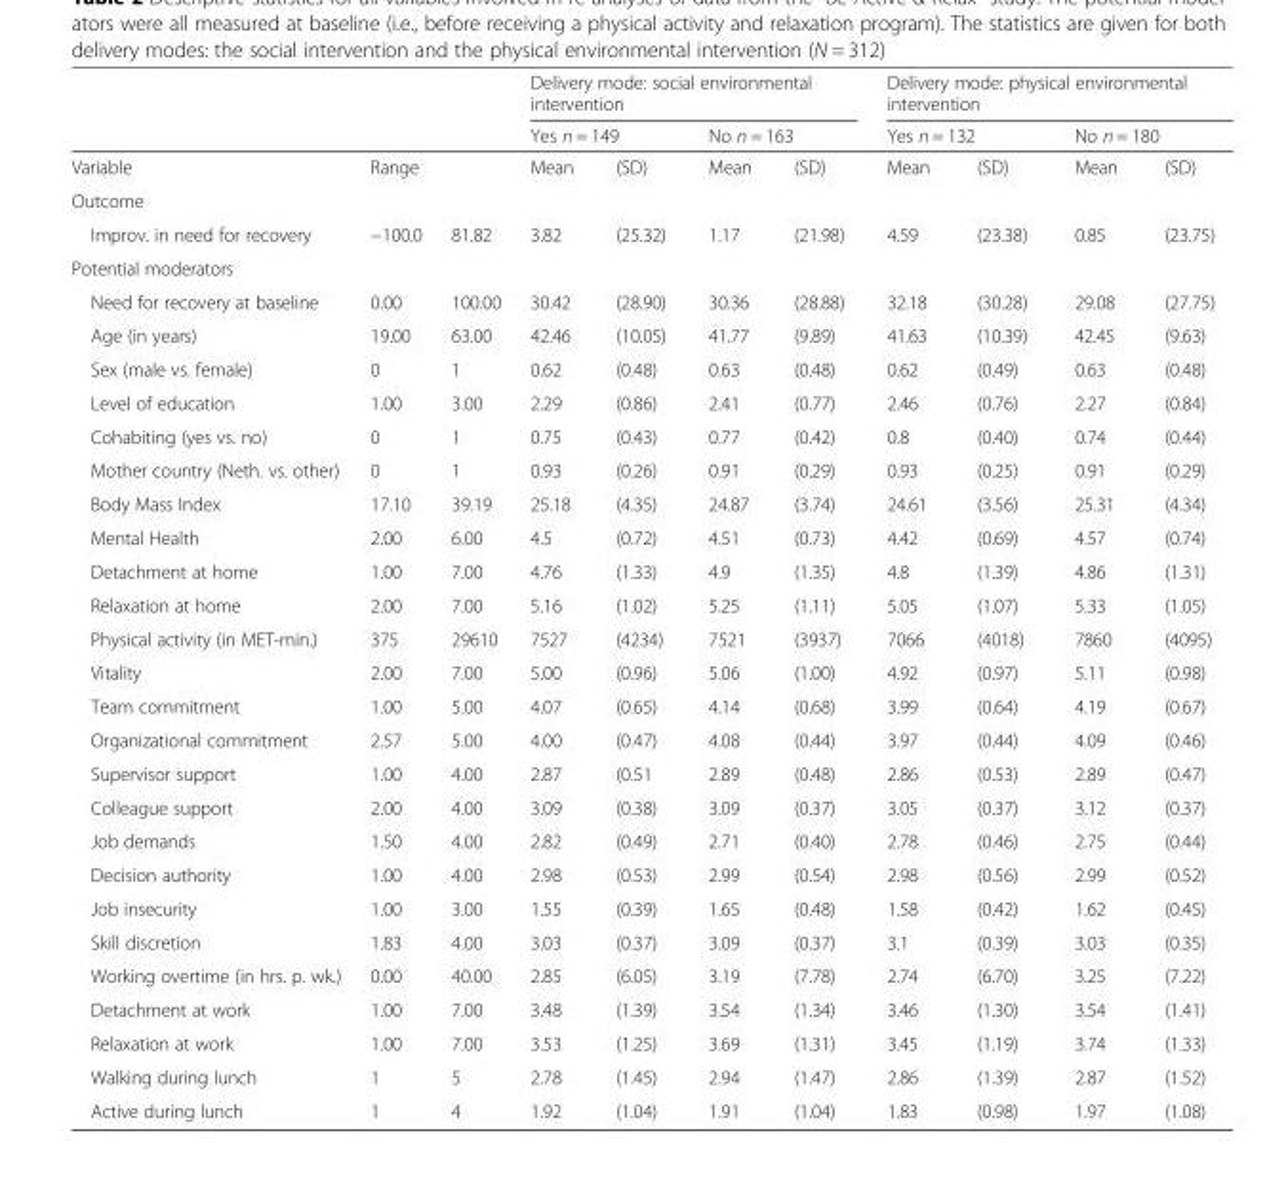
<table><thead><tr><td rowspan="3">Variable</td><td rowspan="2"></td><td rowspan="2"></td><td colspan="4">Delivery mode: social environmental intervention</td><td colspan="4">Delivery mode: physical environmental intervention</td></tr><tr><td colspan="2">Yes n = 149</td><td colspan="2">No n = 163</td><td colspan="2">Yes n = 132</td><td colspan="2">No n = 180</td></tr><tr><td colspan="2">Range</td><td>Mean</td><td>(SD)</td><td>Mean</td><td>(SD)</td><td>Mean</td><td>(SD)</td><td>Mean</td><td>(SD)</td></tr></thead><tbody><tr><td colspan="11">Outcome</td></tr><tr><td>Improv. in need for recovery</td><td>−100.0</td><td>81.82</td><td>3.82</td><td>(25.32)</td><td>1.17</td><td>(21.98)</td><td>4.59</td><td>(23.38)</td><td>0.85</td><td>(23.75)</td></tr><tr><td colspan="11">Potential moderators</td></tr><tr><td>Need for recovery at baseline</td><td>0.00</td><td>100.00</td><td>30.42</td><td>(28.90)</td><td>30.36</td><td>(28.88)</td><td>32.18</td><td>(30.28)</td><td>29.08</td><td>(27.75)</td></tr><tr><td>Age (in years)</td><td>19.00</td><td>63.00</td><td>42.46</td><td>(10.05)</td><td>41.77</td><td>(9.89)</td><td>41.63</td><td>(10.39)</td><td>42.45</td><td>(9.63)</td></tr><tr><td>Sex (male vs. female)</td><td>0</td><td>1</td><td>0.62</td><td>(0.48)</td><td>0.63</td><td>(0.48)</td><td>0.62</td><td>(0.49)</td><td>0.63</td><td>(0.48)</td></tr><tr><td>Level of education</td><td>1.00</td><td>3.00</td><td>2.29</td><td>(0.86)</td><td>2.41</td><td>(0.77)</td><td>2.46</td><td>(0.76)</td><td>2.27</td><td>(0.84)</td></tr><tr><td>Cohabiting (yes vs. no)</td><td>0</td><td>1</td><td>0.75</td><td>(0.43)</td><td>0.77</td><td>(0.42)</td><td>0.8</td><td>(0.40)</td><td>0.74</td><td>(0.44)</td></tr><tr><td>Mother country (Neth. vs. other)</td><td>0</td><td>1</td><td>0.93</td><td>(0.26)</td><td>0.91</td><td>(0.29)</td><td>0.93</td><td>(0.25)</td><td>0.91</td><td>(0.29)</td></tr><tr><td>Body Mass Index</td><td>17.10</td><td>39.19</td><td>25.18</td><td>(4.35)</td><td>24.87</td><td>(3.74)</td><td>24.61</td><td>(3.56)</td><td>25.31</td><td>(4.34)</td></tr><tr><td>Mental Health</td><td>2.00</td><td>6.00</td><td>4.5</td><td>(0.72)</td><td>4.51</td><td>(0.73)</td><td>4.42</td><td>(0.69)</td><td>4.57</td><td>(0.74)</td></tr><tr><td>Detachment at home</td><td>1.00</td><td>7.00</td><td>4.76</td><td>(1.33)</td><td>4.9</td><td>(1.35)</td><td>4.8</td><td>(1.39)</td><td>4.86</td><td>(1.31)</td></tr><tr><td>Relaxation at home</td><td>2.00</td><td>7.00</td><td>5.16</td><td>(1.02)</td><td>5.25</td><td>(1.11)</td><td>5.05</td><td>(1.07)</td><td>5.33</td><td>(1.05)</td></tr><tr><td>Physical activity (in MET-min.)</td><td>375</td><td>29610</td><td>7527</td><td>(4234)</td><td>7521</td><td>(3937)</td><td>7066</td><td>(4018)</td><td>7860</td><td>(4095)</td></tr><tr><td>Vitality</td><td>2.00</td><td>7.00</td><td>5.00</td><td>(0.96)</td><td>5.06</td><td>(1.00)</td><td>4.92</td><td>(0.97)</td><td>5.11</td><td>(0.98)</td></tr><tr><td>Team commitment</td><td>1.00</td><td>5.00</td><td>4.07</td><td>(0.65)</td><td>4.14</td><td>(0.68)</td><td>3.99</td><td>(0.64)</td><td>4.19</td><td>(0.67)</td></tr><tr><td>Organizational commitment</td><td>2.57</td><td>5.00</td><td>4.00</td><td>(0.47)</td><td>4.08</td><td>(0.44)</td><td>3.97</td><td>(0.44)</td><td>4.09</td><td>(0.46)</td></tr><tr><td>Supervisor support</td><td>1.00</td><td>4.00</td><td>2.87</td><td>(0.51</td><td>2.89</td><td>(0.48)</td><td>2.86</td><td>(0.53)</td><td>2.89</td><td>(0.47)</td></tr><tr><td>Colleague support</td><td>2.00</td><td>4.00</td><td>3.09</td><td>(0.38)</td><td>3.09</td><td>(0.37)</td><td>3.05</td><td>(0.37)</td><td>3.12</td><td>(0.37)</td></tr><tr><td>Job demands</td><td>1.50</td><td>4.00</td><td>2.82</td><td>(0.49)</td><td>2.71</td><td>(0.40)</td><td>2.78</td><td>(0.46)</td><td>2.75</td><td>(0.44)</td></tr><tr><td>Decision authority</td><td>1.00</td><td>4.00</td><td>2.98</td><td>(0.53)</td><td>2.99</td><td>(0.54)</td><td>2.98</td><td>(0.56)</td><td>2.99</td><td>(0.52)</td></tr><tr><td>Job insecurity</td><td>1.00</td><td>3.00</td><td>1.55</td><td>(0.39)</td><td>1.65</td><td>(0.48)</td><td>1.58</td><td>(0.42)</td><td>1.62</td><td>(0.45)</td></tr><tr><td>Skill discretion</td><td>1.83</td><td>4.00</td><td>3.03</td><td>(0.37)</td><td>3.09</td><td>(0.37)</td><td>3.1</td><td>(0.39)</td><td>3.03</td><td>(0.35)</td></tr><tr><td>Working overtime (in hrs. p. wk.)</td><td>0.00</td><td>40.00</td><td>2.85</td><td>(6.05)</td><td>3.19</td><td>(7.78)</td><td>2.74</td><td>(6.70)</td><td>3.25</td><td>(7.22)</td></tr><tr><td>Detachment at work</td><td>1.00</td><td>7.00</td><td>3.48</td><td>(1.39)</td><td>3.54</td><td>(1.34)</td><td>3.46</td><td>(1.30)</td><td>3.54</td><td>(1.41)</td></tr><tr><td>Relaxation at work</td><td>1.00</td><td>7.00</td><td>3.53</td><td>(1.25)</td><td>3.69</td><td>(1.31)</td><td>3.45</td><td>(1.19)</td><td>3.74</td><td>(1.33)</td></tr><tr><td>Walking during lunch</td><td>1</td><td>5</td><td>2.78</td><td>(1.45)</td><td>2.94</td><td>(1.47)</td><td>2.86</td><td>(1.39)</td><td>2.87</td><td>(1.52)</td></tr><tr><td>Active during lunch</td><td>1</td><td>4</td><td>1.92</td><td>(1.04)</td><td>1.91</td><td>(1.04)</td><td>1.83</td><td>(0.98)</td><td>1.97</td><td>(1.08)</td></tr></tbody></table>